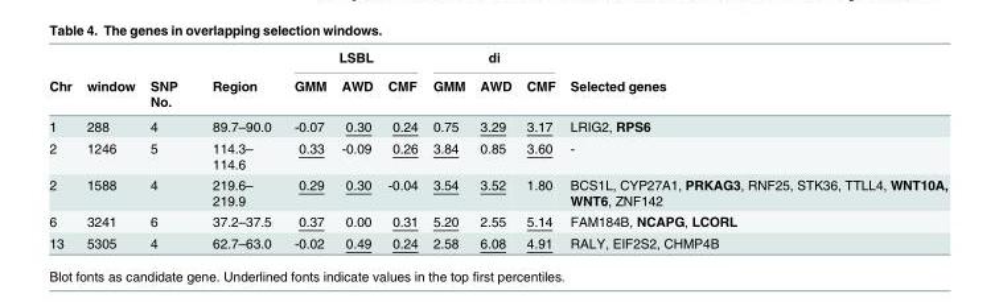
<table><thead><tr><td rowspan="2">Chr</td><td rowspan="2">window</td><td rowspan="2">SNP No.</td><td rowspan="2">Region</td><td colspan="3">LSBL</td><td colspan="3">di</td><td rowspan="2">Selected genes</td></tr><tr><td>GMM</td><td>AWD</td><td>CMF</td><td>GMM</td><td>AWD</td><td>CMF</td></tr></thead><tbody><tr><td>1</td><td>288</td><td>4</td><td>89.7–90.0</td><td>-0.07</td><td>0.30</td><td>0.24</td><td>0.75</td><td>3.29</td><td>3.17</td><td>LRIG2, RPS6</td></tr><tr><td>2</td><td>1246</td><td>5</td><td>114.3– 114.6</td><td>0.33</td><td>-0.09</td><td>0.26</td><td>3.84</td><td>0.85</td><td>3.60</td><td>-</td></tr><tr><td>2</td><td>1588</td><td>4</td><td>219.6– 219.9</td><td>0.29</td><td>0.30</td><td>-0.04</td><td>3.54</td><td>3.52</td><td>1.80</td><td>BCS1L, CYP27A1, PRKAG3, RNF25, STK36, TTLL4, WNT10A, WNT6, ZNF142</td></tr><tr><td>6</td><td>3241</td><td>6</td><td>37.2–37.5</td><td>0.37</td><td>0.00</td><td>0.31</td><td>5.20</td><td>2.55</td><td>5.14</td><td>FAM184B, NCAPG, LCORL</td></tr><tr><td>13</td><td>5305</td><td>4</td><td>62.7–63.0</td><td>-0.02</td><td>0.49</td><td>0.24</td><td>2.58</td><td>6.08</td><td>4.91</td><td>RALY, EIF2S2, CHMP4B</td></tr></tbody></table>